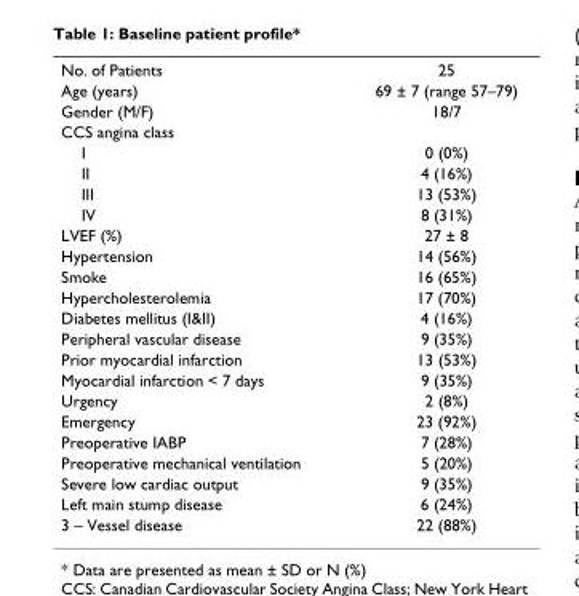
<table><tbody><tr><td>No. of Patients</td><td>25</td></tr><tr><td>Age (years)</td><td>69 ± 7 (range 57–79)</td></tr><tr><td>Gender (M/F)</td><td>18/7</td></tr><tr><td colspan="2">CCS angina class</td></tr><tr><td>I</td><td>0 (0%)</td></tr><tr><td>II</td><td>4 (16%)</td></tr><tr><td>III</td><td>13 (53%)</td></tr><tr><td>IV</td><td>8 (31%)</td></tr><tr><td>LVEF (%)</td><td>27 ± 8</td></tr><tr><td>Hypertension</td><td>14 (56%)</td></tr><tr><td>Smoke</td><td>16 (65%)</td></tr><tr><td>Hypercholesterolemia</td><td>17 (70%)</td></tr><tr><td>Diabetes mellitus (I&amp;II)</td><td>4 (16%)</td></tr><tr><td>Peripheral vascular disease</td><td>9 (35%)</td></tr><tr><td>Prior myocardial infarction</td><td>13 (53%)</td></tr><tr><td>Myocardial infarction &lt; 7 days</td><td>9 (35%)</td></tr><tr><td>Urgency</td><td>2 (8%)</td></tr><tr><td>Emergency</td><td>23 (92%)</td></tr><tr><td>Preoperative IABP</td><td>7 (28%)</td></tr><tr><td>Preoperative mechanical ventilation</td><td>5 (20%)</td></tr><tr><td>Severe low cardiac output</td><td>9 (35%)</td></tr><tr><td>Left main stump disease</td><td>6 (24%)</td></tr><tr><td>3 – Vessel disease</td><td>22 (88%)</td></tr></tbody></table>